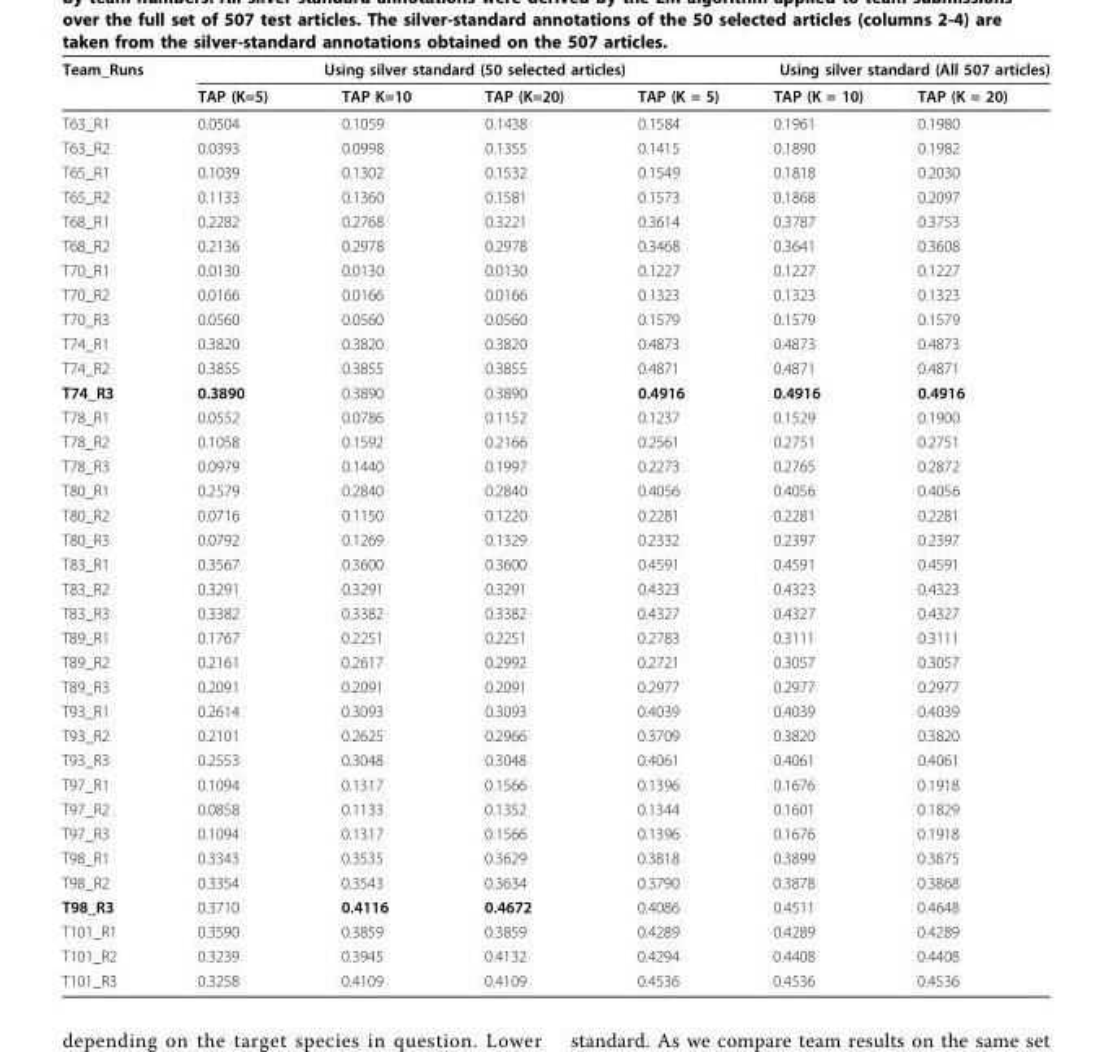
<table><thead><tr><td rowspan="2">Team_Runs</td><td colspan="3">Using silver standard (50 selected articles)</td><td colspan="3">Using silver standard (All 507 articles)</td></tr><tr><td>TAP (K=5)</td><td>TAP K=10</td><td>TAP (K=20)</td><td>TAP (K = 5)</td><td>TAP (K = 10)</td><td>TAP (K = 20)</td></tr></thead><tbody><tr><td>T63_R1</td><td>0.0504</td><td>0.1059</td><td>0.1438</td><td>0.1584</td><td>0.1961</td><td>0.1980</td></tr><tr><td>T63_R2</td><td>0.0393</td><td>0.0998</td><td>0.1355</td><td>0.1415</td><td>0.1890</td><td>0.1982</td></tr><tr><td>T65_R1</td><td>0.1039</td><td>0.1302</td><td>0.1532</td><td>0.1549</td><td>0.1818</td><td>0.2030</td></tr><tr><td>T65_R2</td><td>0.1133</td><td>0.1360</td><td>0.1581</td><td>0.1573</td><td>0.1868</td><td>0.2097</td></tr><tr><td>T68_R1</td><td>0.2282</td><td>0.2768</td><td>0.3221</td><td>0.3614</td><td>0.3787</td><td>0.3753</td></tr><tr><td>T68_R2</td><td>0.2136</td><td>0.2978</td><td>0.2978</td><td>0.3468</td><td>0.3641</td><td>0.3608</td></tr><tr><td>T70_R1</td><td>0.0130</td><td>0.0130</td><td>0.0130</td><td>0.1227</td><td>0.1227</td><td>0.1227</td></tr><tr><td>T70_R2</td><td>0.0166</td><td>0.0166</td><td>0.0166</td><td>0.1323</td><td>0.1323</td><td>0.1323</td></tr><tr><td>T70_R3</td><td>0.0560</td><td>0.0560</td><td>0.0560</td><td>0.1579</td><td>0.1579</td><td>0.1579</td></tr><tr><td>T74_R1</td><td>0.3820</td><td>0.3820</td><td>0.3820</td><td>0.4873</td><td>0.4873</td><td>0.4873</td></tr><tr><td>T74_R2</td><td>0.3855</td><td>0.3855</td><td>0.3855</td><td>0.4871</td><td>0.4871</td><td>0.4871</td></tr><tr><td>T74_R3</td><td>0.3890</td><td>0.3890</td><td>0.3890</td><td>0.4916</td><td>0.4916</td><td>0.4916</td></tr><tr><td>T78_R1</td><td>0.0552</td><td>0.0786</td><td>0.1152</td><td>0.1237</td><td>0.1529</td><td>0.1900</td></tr><tr><td>T78_R2</td><td>0.1058</td><td>0.1592</td><td>0.2166</td><td>0.2561</td><td>0.2751</td><td>0.2751</td></tr><tr><td>T78_R3</td><td>0.0979</td><td>0.1440</td><td>0.1997</td><td>0.2273</td><td>0.2765</td><td>0.2872</td></tr><tr><td>T80_R1</td><td>0.2579</td><td>0.2840</td><td>0.2840</td><td>0.4056</td><td>0.4056</td><td>0.4056</td></tr><tr><td>T80_R2</td><td>0.0716</td><td>0.1150</td><td>0.1220</td><td>0.2281</td><td>0.2281</td><td>0.2281</td></tr><tr><td>T80_R3</td><td>0.0792</td><td>0.1269</td><td>0.1329</td><td>0.2332</td><td>0.2397</td><td>0.2397</td></tr><tr><td>T83_R1</td><td>0.3567</td><td>0.3600</td><td>0.3600</td><td>0.4591</td><td>0.4591</td><td>0.4591</td></tr><tr><td>T83_R2</td><td>0.3291</td><td>0.3291</td><td>0.3291</td><td>0.4323</td><td>0.4323</td><td>0.4323</td></tr><tr><td>T83_R3</td><td>0.3382</td><td>0.3382</td><td>0.3382</td><td>0.4327</td><td>0.4327</td><td>0.4327</td></tr><tr><td>T89_R1</td><td>0.1767</td><td>0.2251</td><td>0.2251</td><td>0.2783</td><td>0.3111</td><td>0.3111</td></tr><tr><td>T89_R2</td><td>0.2161</td><td>0.2617</td><td>0.2992</td><td>0.2721</td><td>0.3057</td><td>0.3057</td></tr><tr><td>T89_R3</td><td>0.2091</td><td>0.2091</td><td>0.2091</td><td>0.2977</td><td>0.2977</td><td>0.2977</td></tr><tr><td>T93_R1</td><td>0.2614</td><td>0.3093</td><td>0.3093</td><td>0.4039</td><td>0.4039</td><td>0.4039</td></tr><tr><td>T93_R2</td><td>0.2101</td><td>0.2625</td><td>0.2966</td><td>0.3709</td><td>0.3820</td><td>0.3820</td></tr><tr><td>T93_R3</td><td>0.2553</td><td>0.3048</td><td>0.3048</td><td>0.4061</td><td>0.4061</td><td>0.4061</td></tr><tr><td>T97_R1</td><td>0.1094</td><td>0.1317</td><td>0.1566</td><td>0.1396</td><td>0.1676</td><td>0.1918</td></tr><tr><td>T97_R2</td><td>0.0858</td><td>0.1133</td><td>0.1352</td><td>0.1344</td><td>0.1601</td><td>0.1829</td></tr><tr><td>T97_R3</td><td>0.1094</td><td>0.1317</td><td>0.1566</td><td>0.1396</td><td>0.1676</td><td>0.1918</td></tr><tr><td>T98_R1</td><td>0.3343</td><td>0.3535</td><td>0.3629</td><td>0.3818</td><td>0.3899</td><td>0.3875</td></tr><tr><td>T98_R2</td><td>0.3354</td><td>0.3543</td><td>0.3634</td><td>0.3790</td><td>0.3878</td><td>0.3868</td></tr><tr><td>T98_R3</td><td>0.3710</td><td>0.4116</td><td>0.4672</td><td>0.4086</td><td>0.4511</td><td>0.4648</td></tr><tr><td>T101_R1</td><td>0.3590</td><td>0.3859</td><td>0.3859</td><td>0.4289</td><td>0.4289</td><td>0.4289</td></tr><tr><td>T101_R2</td><td>0.3239</td><td>0.3945</td><td>0.4132</td><td>0.4294</td><td>0.4408</td><td>0.4408</td></tr><tr><td>T101_R3</td><td>0.3258</td><td>0.4109</td><td>0.4109</td><td>0.4536</td><td>0.4536</td><td>0.4536</td></tr></tbody></table>